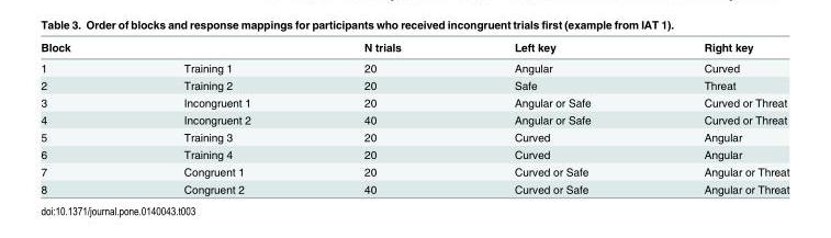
<table><thead><tr><td>Block</td><td></td><td>N trials</td><td>Left key</td><td>Right key</td></tr></thead><tbody><tr><td>1</td><td>Training 1</td><td>20</td><td>Angular</td><td>Curved</td></tr><tr><td>2</td><td>Training 2</td><td>20</td><td>Safe</td><td>Threat</td></tr><tr><td>3</td><td>Incongruent 1</td><td>20</td><td>Angular or Safe</td><td>Curved or Threat</td></tr><tr><td>4</td><td>Incongruent 2</td><td>40</td><td>Angular or Safe</td><td>Curved or Threat</td></tr><tr><td>5</td><td>Training 3</td><td>20</td><td>Curved</td><td>Angular</td></tr><tr><td>6</td><td>Training 4</td><td>20</td><td>Curved</td><td>Angular</td></tr><tr><td>7</td><td>Congruent 1</td><td>20</td><td>Curved or Safe</td><td>Angular or Threat</td></tr><tr><td>8</td><td>Congruent 2</td><td>40</td><td>Curved or Safe</td><td>Angular or Threat</td></tr></tbody></table>